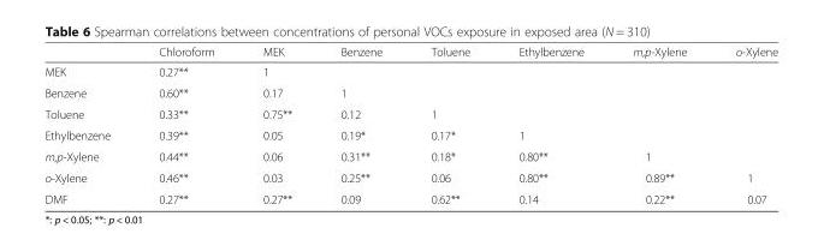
<table><thead><tr><td></td><td>Chloroform</td><td>MEK</td><td>Benzene</td><td>Toluene</td><td>Ethylbenzene</td><td>m,p-Xylene</td><td>o-Xylene</td></tr></thead><tbody><tr><td>MEK</td><td>0.27**</td><td>1</td><td></td><td></td><td></td><td></td><td></td></tr><tr><td>Benzene</td><td>0.60**</td><td>0.17</td><td>1</td><td></td><td></td><td></td><td></td></tr><tr><td>Toluene</td><td>0.33**</td><td>0.75**</td><td>0.12</td><td>1</td><td></td><td></td><td></td></tr><tr><td>Ethylbenzene</td><td>0.39**</td><td>0.05</td><td>0.19*</td><td>0.17*</td><td>1</td><td></td><td></td></tr><tr><td>m,p-Xylene</td><td>0.44**</td><td>0.06</td><td>0.31**</td><td>0.18*</td><td>0.80**</td><td>1</td><td></td></tr><tr><td>o-Xylene</td><td>0.46**</td><td>0.03</td><td>0.25**</td><td>0.06</td><td>0.80**</td><td>0.89**</td><td>1</td></tr><tr><td>DMF</td><td>0.27**</td><td>0.27**</td><td>0.09</td><td>0.62**</td><td>0.14</td><td>0.22**</td><td>0.07</td></tr></tbody></table>